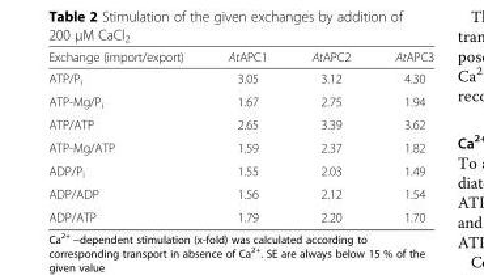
<table><thead><tr><td>Exchange (import/export)</td><td>AtAPC1</td><td>AtAPC2</td><td>AtAPC3</td></tr></thead><tbody><tr><td>ATP/P<sub>i</sub></td><td>3.05</td><td>3.12</td><td>4.30</td></tr><tr><td>ATP-Mg/P<sub>i</sub></td><td>1.67</td><td>2.75</td><td>1.94</td></tr><tr><td>ATP/ATP</td><td>2.65</td><td>3.39</td><td>3.62</td></tr><tr><td>ATP-Mg/ATP</td><td>1.59</td><td>2.37</td><td>1.82</td></tr><tr><td>ADP/P<sub>i</sub></td><td>1.55</td><td>2.03</td><td>1.49</td></tr><tr><td>ADP/ADP</td><td>1.56</td><td>2.12</td><td>1.54</td></tr><tr><td>ADP/ATP</td><td>1.79</td><td>2.20</td><td>1.70</td></tr></tbody></table>